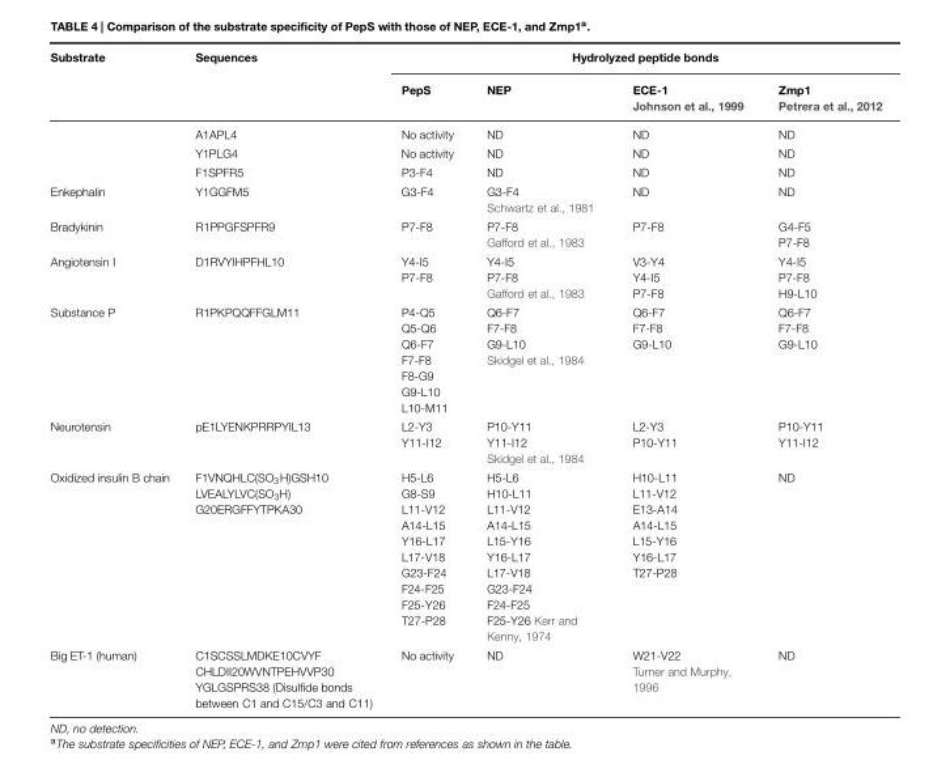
<table><thead><tr><td rowspan="3">Substrate</td><td rowspan="3">Sequences</td><td colspan="4">Hydrolyzed peptide bonds</td></tr><tr><td rowspan="2">PepS</td><td rowspan="2">NEP</td><td rowspan="2">ECE-1 Johnson et al., 1999</td><td rowspan="2">Zmp1 Petrera et al., 2012</td></tr><tr></tr></thead><tbody><tr><td></td><td>A1APL4</td><td>No activity</td><td>ND</td><td>ND</td><td>ND</td></tr><tr><td></td><td>Y1PLG4</td><td>No activity</td><td>ND</td><td>ND</td><td>ND</td></tr><tr><td></td><td>F1SPFR5</td><td>P3-F4</td><td>ND</td><td>ND</td><td>ND</td></tr><tr><td>Enkephalin</td><td>Y1GGFM5</td><td>G3-F4</td><td>G3-F4 Schwartz et al., 1981</td><td>ND</td><td>ND</td></tr><tr><td>Bradykinin</td><td>R1PPGFSPFR9</td><td>P7-F8</td><td>P7-F8 Gafford et al., 1983</td><td>P7-F8</td><td>G4-F5 P7-F8</td></tr><tr><td>Angiotensin I</td><td>D1RVYIHPFHL10</td><td>Y4-I5 P7-F8</td><td>Y4-I5 P7-F8 Gafford et al., 1983</td><td>V3-Y4 Y4-I5 P7-F8</td><td>Y4-I5 P7-F8 H9-L10</td></tr><tr><td>Substance P</td><td>R1PKPQQFFGLM11</td><td>P4-Q5 Q5-Q6 Q6-F7 F7-F8 F8-G9 G9-L10 L10-M11</td><td>Q6-F7 F7-F8 G9-L10 Skidgel et al., 1984</td><td>Q6-F7 F7-F8 G9-L10</td><td>Q6-F7 F7-F8 G9-L10</td></tr><tr><td>Neurotensin</td><td>pE1LYENKPRRPYIL13</td><td>L2-Y3 Y11-I12</td><td>P10-Y11 Y11-I12 Skidgel et al., 1984</td><td>L2-Y3 P10-Y11</td><td>P10-Y11 Y11-I12</td></tr><tr><td>Oxidized insulin B chain</td><td>F1VNQHLC(SO<sub>3</sub>H)GSH10 LVEALYLVC(SO<sub>3</sub>H) G20ERGFFYTPKA30</td><td>H5-L6 G8-S9 L11-V12 A14-L15 Y16-L17 L17-V18 G23-F24 F24-F25 F25-Y26 T27-P28</td><td>H5-L6 H10-L11 L11-V12 A14-L15 L15-Y16 Y16-L17 L17-V18 G23-F24 F24-F25 F25-Y26 Kerr and Kenny, 1974</td><td>H10-L11 L11-V12 E13-A14 A14-L15 L15-Y16 Y16-L17 T27-P28</td><td>ND</td></tr><tr><td>Big ET-1 (human)</td><td>C1SCSSLMDKE10CVYF CHLDII20WVNTPEHVVP30 YGLGSPRS38 (Disulfide bonds between C1 and C15/C3 and C11)</td><td>No activity</td><td>ND</td><td>W21-V22 Turner and Murphy, 1996</td><td>ND</td></tr></tbody></table>